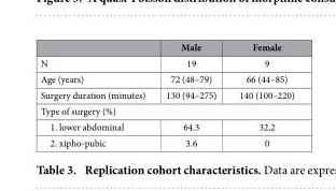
<table><thead><tr><td></td><td>Male</td><td>Female</td></tr></thead><tbody><tr><td>N</td><td>19</td><td>9</td></tr><tr><td>Age (years)</td><td>72 (48–79)</td><td>66 (44–85)</td></tr><tr><td>Surgery duration (minutes)</td><td>130 (94–275)</td><td>140 (100–220)</td></tr><tr><td colspan="3">Type of surgery (%)</td></tr><tr><td>1. lower abdominal</td><td>64.3</td><td>32,2</td></tr><tr><td>2. xipho-pubic</td><td>3.6</td><td>0</td></tr></tbody></table>